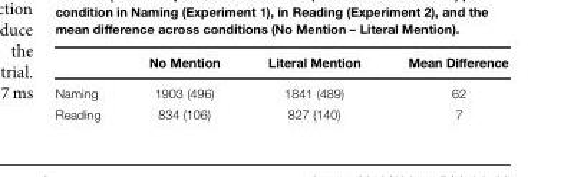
<table><thead><tr><td></td><td>No Mention</td><td>Literal Mention</td><td>Mean Difference</td></tr></thead><tbody><tr><td>Naming</td><td>1903 (496)</td><td>1841 (489)</td><td>62</td></tr><tr><td>Reading</td><td>834 (106)</td><td>827 (140)</td><td>7</td></tr></tbody></table>